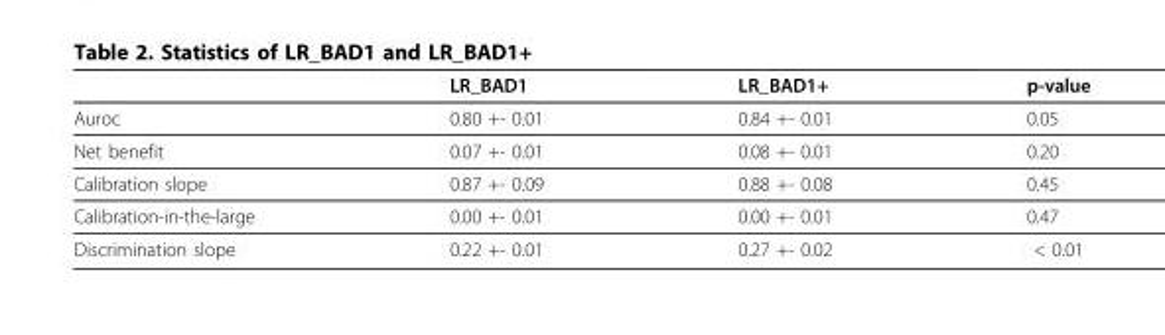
<table><thead><tr><td></td><td>LR_BAD1</td><td>LR_BAD1+</td><td>p-value</td></tr></thead><tbody><tr><td>Auroc</td><td>0.80 +- 0.01</td><td>0.84 +- 0.01</td><td>0.05</td></tr><tr><td>Net benefit</td><td>0.07 +- 0.01</td><td>0.08 +- 0.01</td><td>0.20</td></tr><tr><td>Calibration slope</td><td>0.87 +- 0.09</td><td>0.88 +- 0.08</td><td>0.45</td></tr><tr><td>Calibration-in-the-large</td><td>0.00 +- 0.01</td><td>0.00 +- 0.01</td><td>0.47</td></tr><tr><td>Discrimination slope</td><td>0.22 +- 0.01</td><td>0.27 +- 0.02</td><td>&lt; 0.01</td></tr></tbody></table>